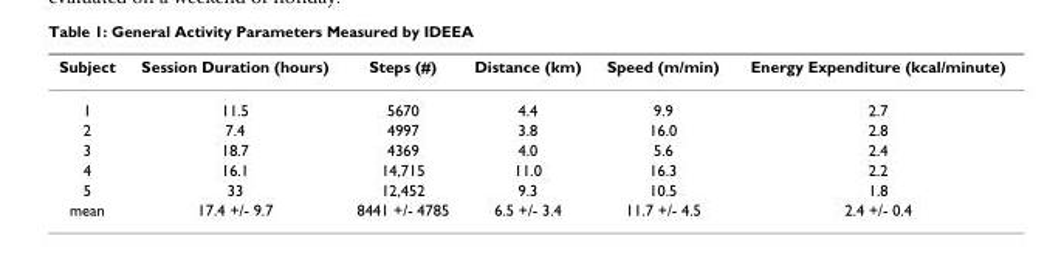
<table><thead><tr><td>Subject</td><td>Session Duration (hours)</td><td>Steps (#)</td><td>Distance (km)</td><td>Speed (m/min)</td><td>Energy Expenditure (kcal/minute)</td></tr></thead><tbody><tr><td>1</td><td>11.5</td><td>5670</td><td>4.4</td><td>9.9</td><td>2.7</td></tr><tr><td>2</td><td>7.4</td><td>4997</td><td>3.8</td><td>16.0</td><td>2.8</td></tr><tr><td>3</td><td>18.7</td><td>4369</td><td>4.0</td><td>5.6</td><td>2.4</td></tr><tr><td>4</td><td>16.1</td><td>14,715</td><td>11.0</td><td>16.3</td><td>2.2</td></tr><tr><td>5</td><td>33</td><td>12,452</td><td>9.3</td><td>10.5</td><td>1.8</td></tr><tr><td>mean</td><td>17.4 +/- 9.7</td><td>8441 +/- 4785</td><td>6.5 +/- 3.4</td><td>11.7 +/- 4.5</td><td>2.4 +/- 0.4</td></tr></tbody></table>